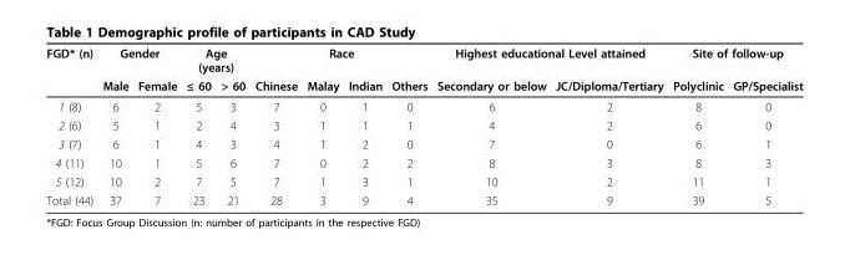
<table><thead><tr><td rowspan="2">FGD* (n)</td><td colspan="2">Gender</td><td colspan="2">Age (years)</td><td colspan="4">Race</td><td colspan="2">Highest educational Level attained</td><td colspan="2">Site of follow-up</td></tr><tr><td>Male</td><td>Female</td><td>≤ 60</td><td>&gt; 60</td><td>Chinese</td><td>Malay</td><td>Indian</td><td>Others</td><td>Secondary or below</td><td>JC/Diploma/Tertiary</td><td>Polyclinic</td><td>GP/Specialist</td></tr></thead><tbody><tr><td>1 (8)</td><td>6</td><td>2</td><td>5</td><td>3</td><td>7</td><td>0</td><td>1</td><td>0</td><td>6</td><td>2</td><td>8</td><td>0</td></tr><tr><td>2 (6)</td><td>5</td><td>1</td><td>2</td><td>4</td><td>3</td><td>1</td><td>1</td><td>1</td><td>4</td><td>2</td><td>6</td><td>0</td></tr><tr><td>3 (7)</td><td>6</td><td>1</td><td>4</td><td>3</td><td>4</td><td>1</td><td>2</td><td>0</td><td>7</td><td>0</td><td>6</td><td>1</td></tr><tr><td>4 (11)</td><td>10</td><td>1</td><td>5</td><td>6</td><td>7</td><td>0</td><td>2</td><td>2</td><td>8</td><td>3</td><td>8</td><td>3</td></tr><tr><td>5 (12)</td><td>10</td><td>2</td><td>7</td><td>5</td><td>7</td><td>1</td><td>3</td><td>1</td><td>10</td><td>2</td><td>11</td><td>1</td></tr><tr><td>Total (44)</td><td>37</td><td>7</td><td>23</td><td>21</td><td>28</td><td>3</td><td>9</td><td>4</td><td>35</td><td>9</td><td>39</td><td>5</td></tr></tbody></table>